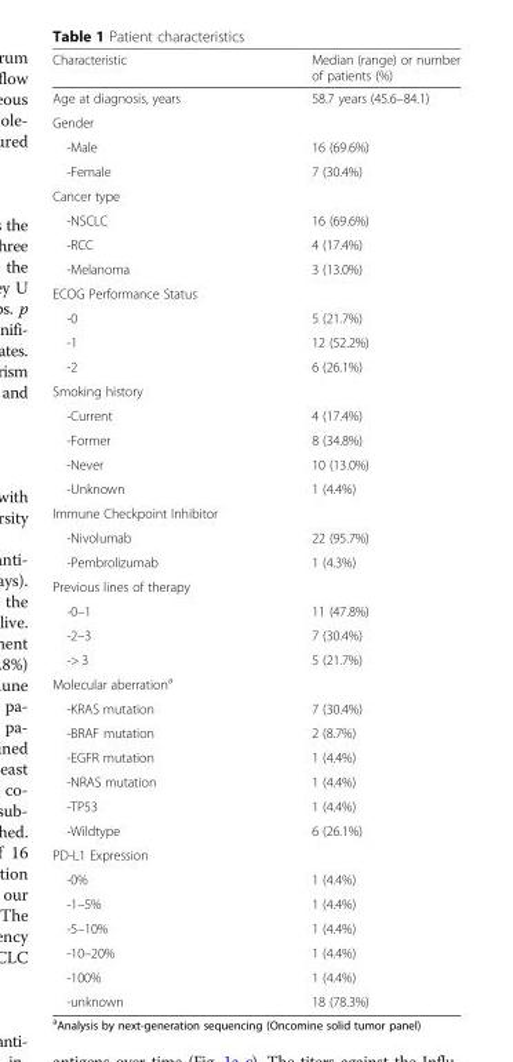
<table><thead><tr><td>Characteristic</td><td>Median (range) or number of patients (%)</td></tr></thead><tbody><tr><td>Age at diagnosis, years</td><td>58.7 years (45.6–84.1)</td></tr><tr><td colspan="2">Gender</td></tr><tr><td>-Male</td><td>16 (69.6%)</td></tr><tr><td>-Female</td><td>7 (30.4%)</td></tr><tr><td colspan="2">Cancer type</td></tr><tr><td>-NSCLC</td><td>16 (69.6%)</td></tr><tr><td>-RCC</td><td>4 (17.4%)</td></tr><tr><td>-Melanoma</td><td>3 (13.0%)</td></tr><tr><td colspan="2">ECOG Performance Status</td></tr><tr><td>-0</td><td>5 (21.7%)</td></tr><tr><td>-1</td><td>12 (52.2%)</td></tr><tr><td>-2</td><td>6 (26.1%)</td></tr><tr><td colspan="2">Smoking history</td></tr><tr><td>-Current</td><td>4 (17.4%)</td></tr><tr><td>-Former</td><td>8 (34.8%)</td></tr><tr><td>-Never</td><td>10 (13.0%)</td></tr><tr><td>-Unknown</td><td>1 (4.4%)</td></tr><tr><td colspan="2">Immune Checkpoint Inhibitor</td></tr><tr><td>-Nivolumab</td><td>22 (95.7%)</td></tr><tr><td>-Pembrolizumab</td><td>1 (4.3%)</td></tr><tr><td colspan="2">Previous lines of therapy</td></tr><tr><td>-0–1</td><td>11 (47.8%)</td></tr><tr><td>-2–3</td><td>7 (30.4%)</td></tr><tr><td>-&gt; 3</td><td>5 (21.7%)</td></tr><tr><td colspan="2">Molecular aberration<sup>a</sup></td></tr><tr><td>-KRAS mutation</td><td>7 (30.4%)</td></tr><tr><td>-BRAF mutation</td><td>2 (8.7%)</td></tr><tr><td>-EGFR mutation</td><td>1 (4.4%)</td></tr><tr><td>-NRAS mutation</td><td>1 (4.4%)</td></tr><tr><td>-TP53</td><td>1 (4.4%)</td></tr><tr><td>-Wildtype</td><td>6 (26.1%)</td></tr><tr><td colspan="2">PD-L1 Expression</td></tr><tr><td>-0%</td><td>1 (4.4%)</td></tr><tr><td>-1–5%</td><td>1 (4.4%)</td></tr><tr><td>-5–10%</td><td>1 (4.4%)</td></tr><tr><td>-10–20%</td><td>1 (4.4%)</td></tr><tr><td>-100%</td><td>1 (4.4%)</td></tr><tr><td>-unknown</td><td>18 (78.3%)</td></tr></tbody></table>